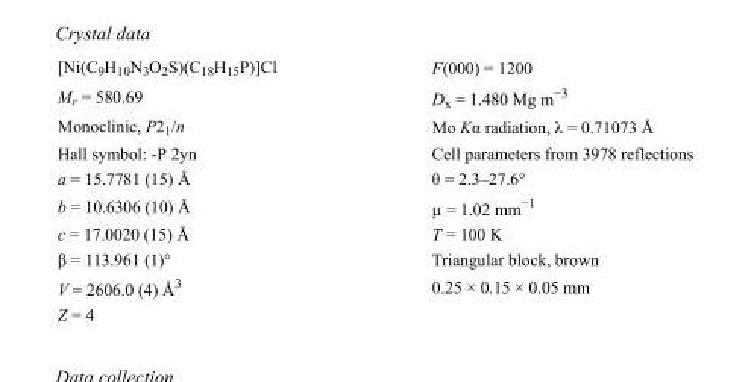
<table><tbody><tr><td>[Ni(C<sub>9</sub>H<sub>10</sub>N<sub>3</sub>O<sub>2</sub>S)(C<sub>18</sub>H<sub>15</sub>P)]Cl</td><td>F(000) = 1200</td></tr><tr><td>M<sub>r</sub> = 580.69</td><td>D<sub>x</sub> = 1.480 Mg m<sup>−3</sup></td></tr><tr><td>Monoclinic, P2<sub>1</sub>/n</td><td>Mo Kα radiation, λ = 0.71073 Å</td></tr><tr><td>Hall symbol: -P 2yn</td><td>Cell parameters from 3978 reflections</td></tr><tr><td>a = 15.7781 (15) Å</td><td>θ = 2.3–27.6°</td></tr><tr><td>b = 10.6306 (10) Å</td><td>µ = 1.02 mm<sup>−1</sup></td></tr><tr><td>c = 17.0020 (15) Å</td><td>T = 100 K</td></tr><tr><td>β = 113.961 (1)°</td><td>Triangular block, brown</td></tr><tr><td>V = 2606.0 (4) Å<sup>3</sup></td><td>0.25 × 0.15 × 0.05 mm</td></tr><tr><td>Z = 4</td><td></td></tr></tbody></table>